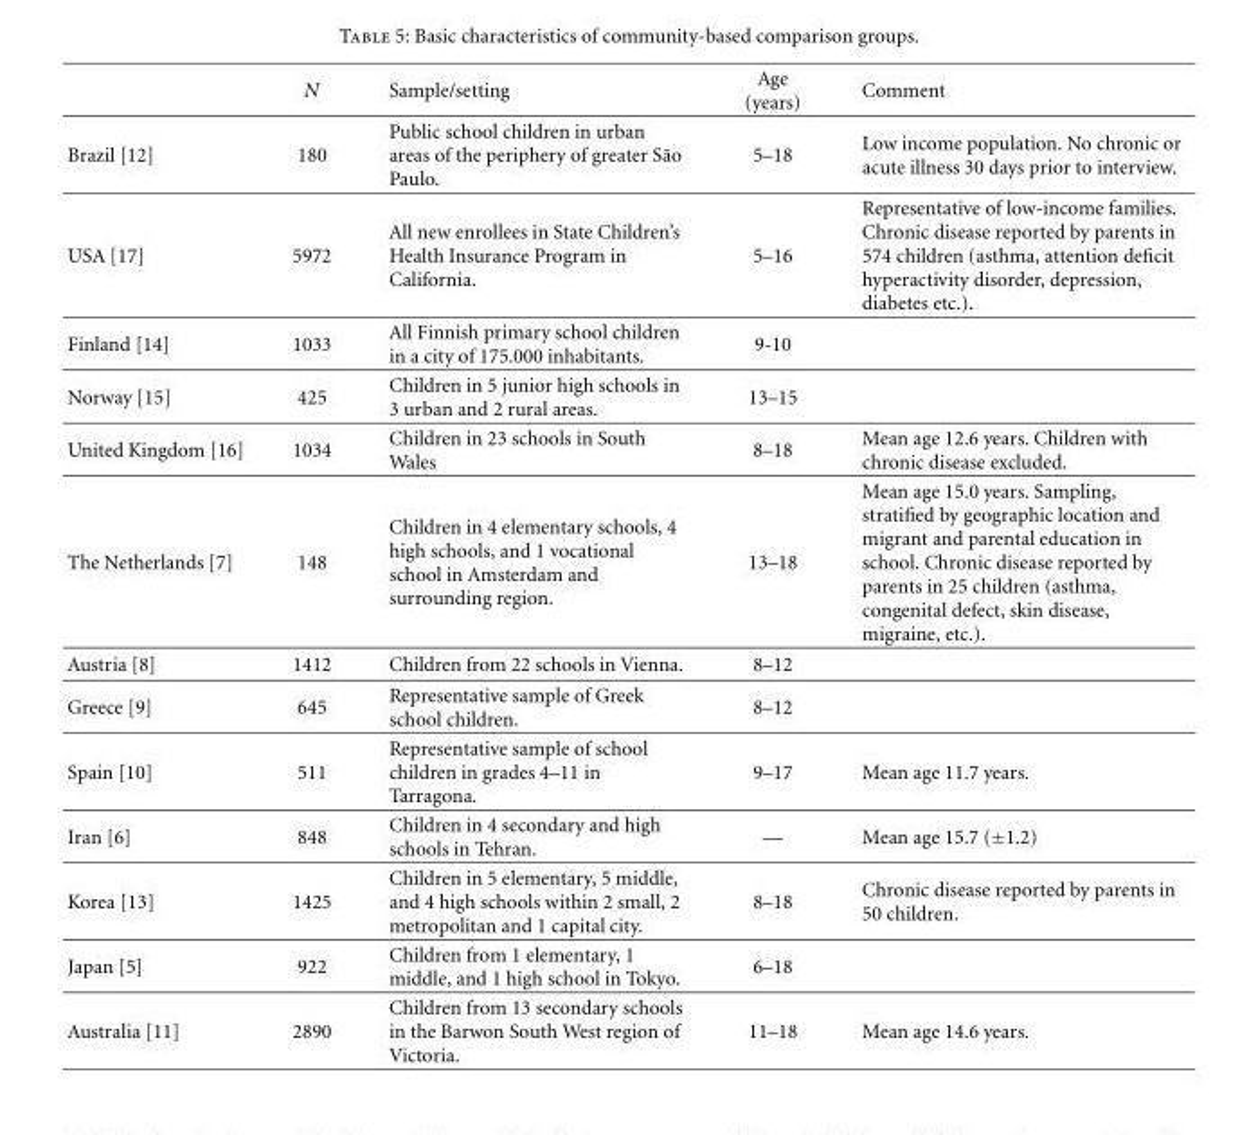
<table><thead><tr><td></td><td>N</td><td>Sample/setting</td><td>Age (years)</td><td>Comment</td></tr></thead><tbody><tr><td>Brazil [12]</td><td>180</td><td>Public school children in urban areas of the periphery of greater S˜ao Paulo.</td><td>5–18</td><td>Low income population. No chronic or acute illness 30 days prior to interview.</td></tr><tr><td>USA [17]</td><td>5972</td><td>All new enrollees in State Children’s Health Insurance Program in California.</td><td>5–16</td><td>Representative of low-income families. Chronic disease reported by parents in 574 children (asthma, attention deficit hyperactivity disorder, depression, diabetes etc.).</td></tr><tr><td>Finland [14]</td><td>1033</td><td>All Finnish primary school children in a city of 175.000 inhabitants.</td><td>9-10</td><td></td></tr><tr><td>Norway [15]</td><td>425</td><td>Children in 5 junior high schools in 3 urban and 2 rural areas.</td><td>13–15</td><td></td></tr><tr><td>United Kingdom [16]</td><td>1034</td><td>Children in 23 schools in South Wales</td><td>8–18</td><td>Mean age 12.6 years. Children with chronic disease excluded.</td></tr><tr><td>The Netherlands [7]</td><td>148</td><td>Children in 4 elementary schools, 4 high schools, and 1 vocational school in Amsterdam and surrounding region.</td><td>13–18</td><td>Mean age 15.0 years. Sampling, stratified by geographic location and migrant and parental education in school. Chronic disease reported by parents in 25 children (asthma, congenital defect, skin disease, migraine, etc.).</td></tr><tr><td>Austria [8]</td><td>1412</td><td>Children from 22 schools in Vienna.</td><td>8–12</td><td></td></tr><tr><td>Greece [9]</td><td>645</td><td>Representative sample of Greek school children.</td><td>8–12</td><td></td></tr><tr><td>Spain [10]</td><td>511</td><td>Representative sample of school children in grades 4–11 in Tarragona.</td><td>9–17</td><td>Mean age 11.7 years.</td></tr><tr><td>Iran [6]</td><td>848</td><td>Children in 4 secondary and high schools in Tehran.</td><td>—</td><td>Mean age 15.7 (±1.2)</td></tr><tr><td>Korea [13]</td><td>1425</td><td>Children in 5 elementary, 5 middle, and 4 high schools within 2 small, 2 metropolitan and 1 capital city.</td><td>8–18</td><td>Chronic disease reported by parents in 50 children.</td></tr><tr><td>Japan [5]</td><td>922</td><td>Children from 1 elementary, 1 middle, and 1 high school in Tokyo.</td><td>6–18</td><td></td></tr><tr><td>Australia [11]</td><td>2890</td><td>Children from 13 secondary schools in the Barwon South West region of Victoria.</td><td>11–18</td><td>Mean age 14.6 years.</td></tr></tbody></table>